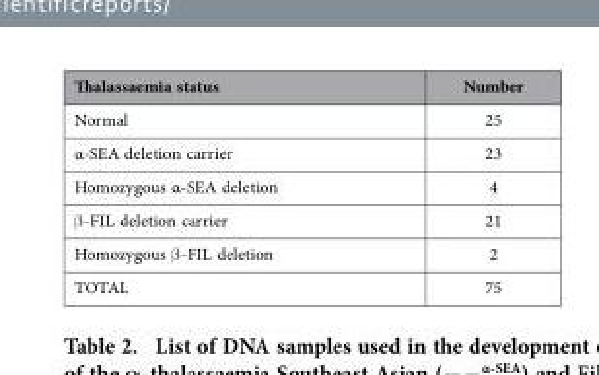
<table><thead><tr><td>Thalassaemia status</td><td>Number</td></tr></thead><tbody><tr><td>Normal</td><td>25</td></tr><tr><td>α-SEA deletion carrier</td><td>23</td></tr><tr><td>Homozygous α-SEA deletion</td><td>4</td></tr><tr><td>β -FIL deletion carrier</td><td>21</td></tr><tr><td>Homozygous β -FIL deletion</td><td>2</td></tr><tr><td>TOTAL</td><td>75</td></tr></tbody></table>